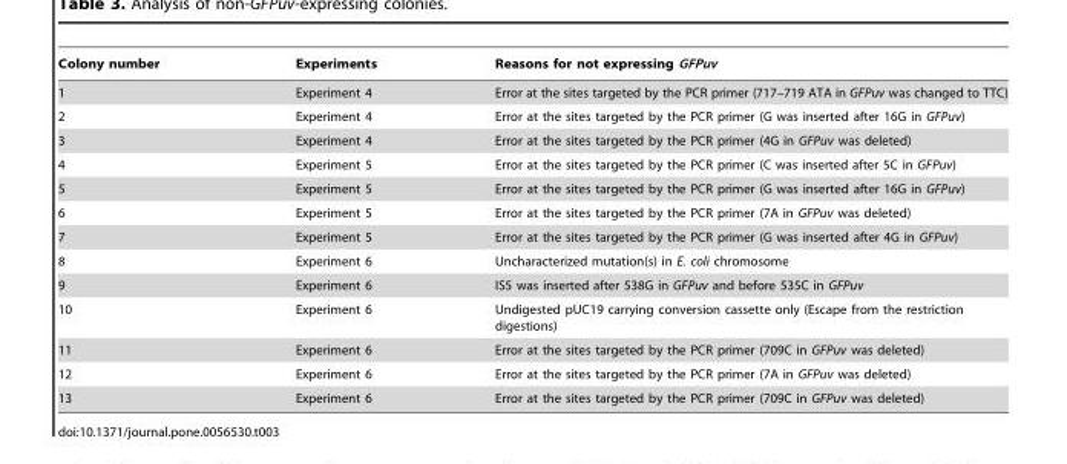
<table><thead><tr><td>Colony number</td><td>Experiments</td><td>Reasons for not expressing GFPuv</td></tr></thead><tbody><tr><td>1</td><td>Experiment 4</td><td>Error at the sites targeted by the PCR primer (717–719 ATA in GFPuv was changed to TTC)</td></tr><tr><td>2</td><td>Experiment 4</td><td>Error at the sites targeted by the PCR primer (G was inserted after 16G in GFPuv)</td></tr><tr><td>3</td><td>Experiment 4</td><td>Error at the sites targeted by the PCR primer (4G in GFPuv was deleted)</td></tr><tr><td>4</td><td>Experiment 5</td><td>Error at the sites targeted by the PCR primer (C was inserted after 5C in GFPuv)</td></tr><tr><td>5</td><td>Experiment 5</td><td>Error at the sites targeted by the PCR primer (G was inserted after 16G in GFPuv)</td></tr><tr><td>6</td><td>Experiment 5</td><td>Error at the sites targeted by the PCR primer (7A in GFPuv was deleted)</td></tr><tr><td>7</td><td>Experiment 5</td><td>Error at the sites targeted by the PCR primer (G was inserted after 4G in GFPuv)</td></tr><tr><td>8</td><td>Experiment 6</td><td>Uncharacterized mutation(s) in E. coli chromosome</td></tr><tr><td>9</td><td>Experiment 6</td><td>IS5 was inserted after 538G in GFPuv and before 535C in GFPuv</td></tr><tr><td>10</td><td>Experiment 6</td><td>Undigested pUC19 carrying conversion cassette only (Escape from the restriction digestions)</td></tr><tr><td>11</td><td>Experiment 6</td><td>Error at the sites targeted by the PCR primer (709C in GFPuv was deleted)</td></tr><tr><td>12</td><td>Experiment 6</td><td>Error at the sites targeted by the PCR primer (7A in GFPuv was deleted)</td></tr><tr><td>13</td><td>Experiment 6</td><td>Error at the sites targeted by the PCR primer (709C in GFPuv was deleted)</td></tr></tbody></table>